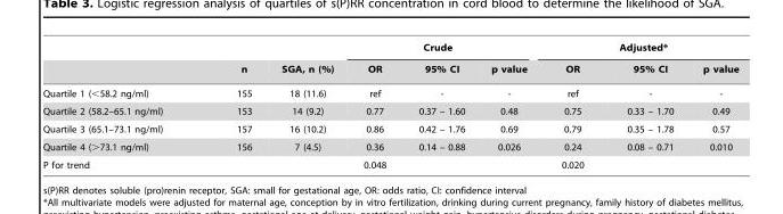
<table><thead><tr><td rowspan="2"></td><td rowspan="2">n</td><td rowspan="2">SGA, n (%)</td><td colspan="3">Crude</td><td colspan="3">Adjusted*</td></tr><tr><td>OR</td><td>95% CI</td><td>p value</td><td>OR</td><td>95% CI</td><td>p value</td></tr></thead><tbody><tr><td>Quartile 1 (&lt;58.2 ng/ml)</td><td>155</td><td>18 (11.6)</td><td>ref</td><td>-</td><td>-</td><td>ref</td><td>-</td><td>-</td></tr><tr><td>Quartile 2 (58.2–65.1 ng/ml)</td><td>153</td><td>14 (9.2)</td><td>0.77</td><td>0.37 – 1.60</td><td>0.48</td><td>0.75</td><td>0.33 – 1.70</td><td>0.49</td></tr><tr><td>Quartile 3 (65.1–73.1 ng/ml)</td><td>157</td><td>16 (10.2)</td><td>0.86</td><td>0.42 – 1.76</td><td>0.69</td><td>0.79</td><td>0.35 – 1.78</td><td>0.57</td></tr><tr><td>Quartile 4 (&gt;73.1 ng/ml)</td><td>156</td><td>7 (4.5)</td><td>0.36</td><td>0.14 – 0.88</td><td>0.026</td><td>0.24</td><td>0.08 – 0.71</td><td>0.010</td></tr><tr><td>P for trend</td><td></td><td></td><td>0.048</td><td></td><td></td><td>0.020</td><td></td><td></td></tr></tbody></table>